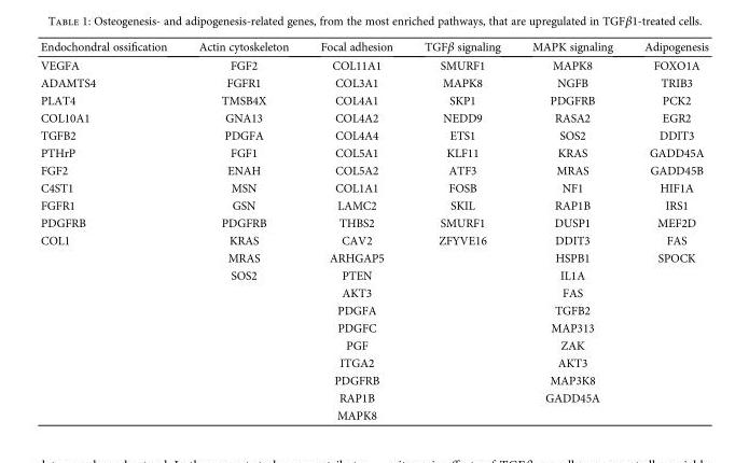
<table><thead><tr><td>Endochondral ossification</td><td>Actin cytoskeleton</td><td>Focal adhesion</td><td>TGFβ signaling</td><td>MAPK signaling</td><td>Adipogenesis</td></tr></thead><tbody><tr><td>VEGFA</td><td>FGF2</td><td>COL11A1</td><td>SMURF1</td><td>MAPK8</td><td>FOXO1A</td></tr><tr><td>ADAMTS4</td><td>FGFR1</td><td>COL3A1</td><td>MAPK8</td><td>NGFB</td><td>TRIB3</td></tr><tr><td>PLAT4</td><td>TMSB4X</td><td>COL4A1</td><td>SKP1</td><td>PDGFRB</td><td>PCK2</td></tr><tr><td>COL10A1</td><td>GNA13</td><td>COL4A2</td><td>NEDD9</td><td>RASA2</td><td>EGR2</td></tr><tr><td>TGFB2</td><td>PDGFA</td><td>COL4A4</td><td>ETS1</td><td>SOS2</td><td>DDIT3</td></tr><tr><td>PTHrP</td><td>FGF1</td><td>COL5A1</td><td>KLF11</td><td>KRAS</td><td>GADD45A</td></tr><tr><td>FGF2</td><td>ENAH</td><td>COL5A2</td><td>ATF3</td><td>MRAS</td><td>GADD45B</td></tr><tr><td>C4ST1</td><td>MSN</td><td>COL1A1</td><td>FOSB</td><td>NF1</td><td>HIF1A</td></tr><tr><td>FGFR1</td><td>GSN</td><td>LAMC2</td><td>SKIL</td><td>RAP1B</td><td>IRS1</td></tr><tr><td>PDGFRB</td><td>PDGFRB</td><td>THBS2</td><td>SMURF1</td><td>DUSP1</td><td>MEF2D</td></tr><tr><td rowspan="11">COL1</td><td>KRAS</td><td>CAV2</td><td>ZFYVE16</td><td>DDIT3</td><td>FAS</td></tr><tr><td>MRAS</td><td>ARHGAP5</td><td></td><td>HSPB1</td><td>SPOCK</td></tr><tr><td>SOS2</td><td>PTEN</td><td></td><td>IL1A</td><td></td></tr><tr><td></td><td>AKT3</td><td></td><td>FAS</td><td></td></tr><tr><td></td><td>PDGFA</td><td></td><td>TGFB2</td><td></td></tr><tr><td></td><td>PDGFC</td><td></td><td>MAP313</td><td></td></tr><tr><td></td><td>PGF</td><td></td><td>ZAK</td><td></td></tr><tr><td></td><td>ITGA2</td><td></td><td>AKT3</td><td></td></tr><tr><td></td><td>PDGFRB</td><td></td><td>MAP3K8</td><td></td></tr><tr><td></td><td>RAP1B</td><td></td><td>GADD45A</td><td></td></tr><tr><td></td><td>MAPK8</td><td></td><td></td><td></td></tr></tbody></table>